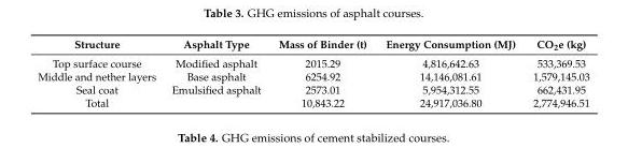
<table><thead><tr><td>Structure</td><td>Asphalt Type</td><td>Mass of Binder (t)</td><td>Energy Consumption (MJ)</td><td>CO<sub>2</sub>e (kg)</td></tr></thead><tbody><tr><td>Top surface course</td><td>Modified asphalt</td><td>2015.29</td><td>4,816,642.63</td><td>533,369.53</td></tr><tr><td>Middle and nether layers</td><td>Base asphalt</td><td>6254.92</td><td>14,146,081.61</td><td>1,579,145.03</td></tr><tr><td>Seal coat</td><td>Emulsified asphalt</td><td>2573.01</td><td>5,954,312.55</td><td>662,431.95</td></tr><tr><td>Total</td><td></td><td>10,843.22</td><td>24,917,036.80</td><td>2,774,946.51</td></tr></tbody></table>